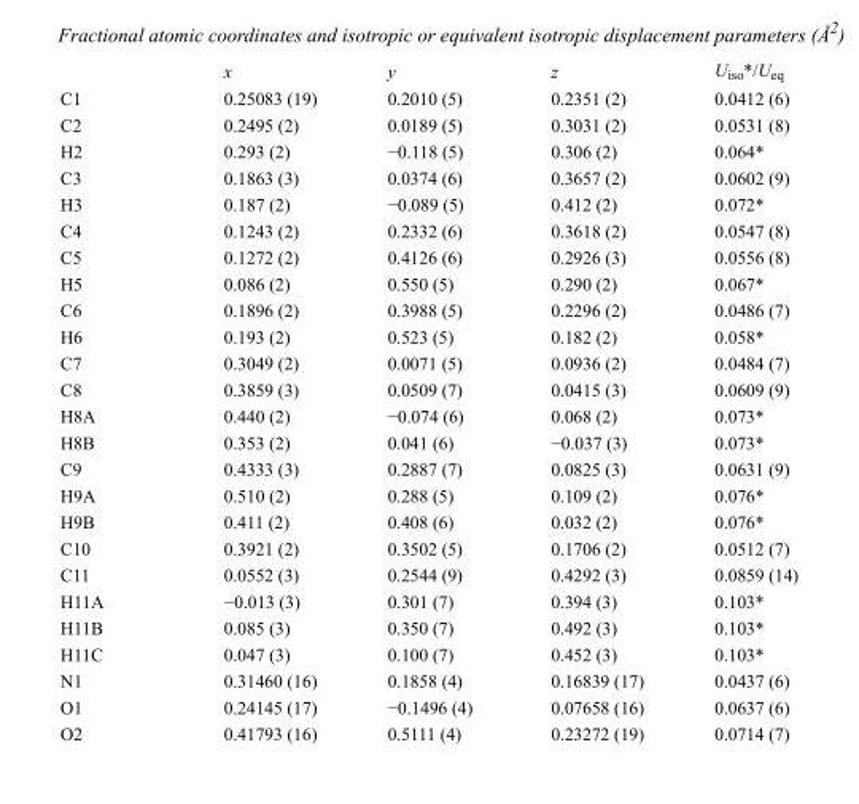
<table><thead><tr><td></td><td>x</td><td>y</td><td>z</td><td>U<sub>iso</sub>*/U<sub>eq</sub></td></tr></thead><tbody><tr><td>C1</td><td>0.25083 (19)</td><td>0.2010 (5)</td><td>0.2351 (2)</td><td>0.0412 (6)</td></tr><tr><td>C2</td><td>0.2495 (2)</td><td>0.0189 (5)</td><td>0.3031 (2)</td><td>0.0531 (8)</td></tr><tr><td>H2</td><td>0.293 (2)</td><td>−0.118 (5)</td><td>0.306 (2)</td><td>0.064*</td></tr><tr><td>C3</td><td>0.1863 (3)</td><td>0.0374 (6)</td><td>0.3657 (2)</td><td>0.0602 (9)</td></tr><tr><td>H3</td><td>0.187 (2)</td><td>−0.089 (5)</td><td>0.412 (2)</td><td>0.072*</td></tr><tr><td>C4</td><td>0.1243 (2)</td><td>0.2332 (6)</td><td>0.3618 (2)</td><td>0.0547 (8)</td></tr><tr><td>C5</td><td>0.1272 (2)</td><td>0.4126 (6)</td><td>0.2926 (3)</td><td>0.0556 (8)</td></tr><tr><td>H5</td><td>0.086 (2)</td><td>0.550 (5)</td><td>0.290 (2)</td><td>0.067*</td></tr><tr><td>C6</td><td>0.1896 (2)</td><td>0.3988 (5)</td><td>0.2296 (2)</td><td>0.0486 (7)</td></tr><tr><td>H6</td><td>0.193 (2)</td><td>0.523 (5)</td><td>0.182 (2)</td><td>0.058*</td></tr><tr><td>C7</td><td>0.3049 (2)</td><td>0.0071 (5)</td><td>0.0936 (2)</td><td>0.0484 (7)</td></tr><tr><td>C8</td><td>0.3859 (3)</td><td>0.0509 (7)</td><td>0.0415 (3)</td><td>0.0609 (9)</td></tr><tr><td>H8A</td><td>0.440 (2)</td><td>−0.074 (6)</td><td>0.068 (2)</td><td>0.073*</td></tr><tr><td>H8B</td><td>0.353 (2)</td><td>0.041 (6)</td><td>−0.037 (3)</td><td>0.073*</td></tr><tr><td>C9</td><td>0.4333 (3)</td><td>0.2887 (7)</td><td>0.0825 (3)</td><td>0.0631 (9)</td></tr><tr><td>H9A</td><td>0.510 (2)</td><td>0.288 (5)</td><td>0.109 (2)</td><td>0.076*</td></tr><tr><td>H9B</td><td>0.411 (2)</td><td>0.408 (6)</td><td>0.032 (2)</td><td>0.076*</td></tr><tr><td>C10</td><td>0.3921 (2)</td><td>0.3502 (5)</td><td>0.1706 (2)</td><td>0.0512 (7)</td></tr><tr><td>C11</td><td>0.0552 (3)</td><td>0.2544 (9)</td><td>0.4292 (3)</td><td>0.0859 (14)</td></tr><tr><td>H11A</td><td>−0.013 (3)</td><td>0.301 (7)</td><td>0.394 (3)</td><td>0.103*</td></tr><tr><td>H11B</td><td>0.085 (3)</td><td>0.350 (7)</td><td>0.492 (3)</td><td>0.103*</td></tr><tr><td>H11C</td><td>0.047 (3)</td><td>0.100 (7)</td><td>0.452 (3)</td><td>0.103*</td></tr><tr><td>N1</td><td>0.31460 (16)</td><td>0.1858 (4)</td><td>0.16839 (17)</td><td>0.0437 (6)</td></tr><tr><td>O1</td><td>0.24145 (17)</td><td>−0.1496 (4)</td><td>0.07658 (16)</td><td>0.0637 (6)</td></tr><tr><td>O2</td><td>0.41793 (16)</td><td>0.5111 (4)</td><td>0.23272 (19)</td><td>0.0714 (7)</td></tr></tbody></table>